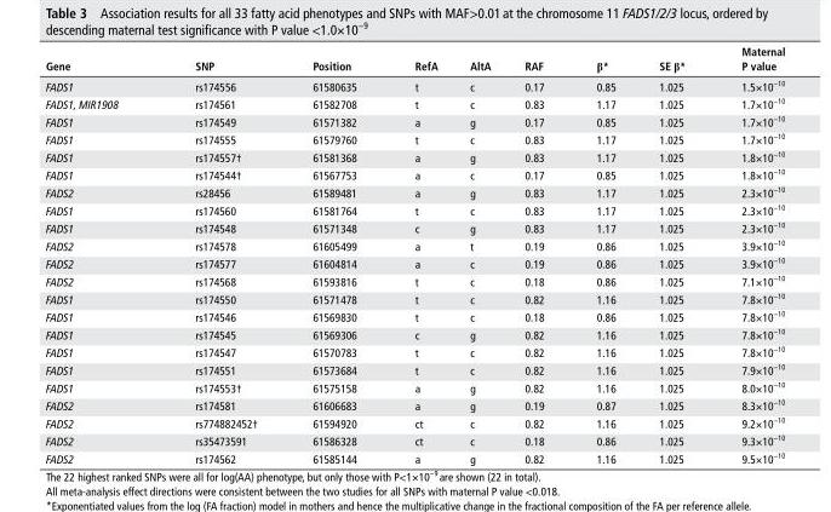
<table><thead><tr><td>Gene</td><td>snP</td><td>Position</td><td>refA</td><td>AltA</td><td>rAF</td><td>β*</td><td>se β*</td><td>Maternal P value</td></tr></thead><tbody><tr><td>FADS1</td><td>rs174556</td><td>61580635</td><td>t</td><td>c</td><td>0.17</td><td>0.85</td><td>1.025</td><td>1.5×10<sup>−10</sup></td></tr><tr><td>FADS1, MIR1908</td><td>rs174561</td><td>61582708</td><td>t</td><td>c</td><td>0.83</td><td>1.17</td><td>1.025</td><td>1.7×10<sup>−10</sup></td></tr><tr><td>FADS1</td><td>rs174549</td><td>61571382</td><td>a</td><td>g</td><td>0.17</td><td>0.85</td><td>1.025</td><td>1.7×10<sup>−10</sup></td></tr><tr><td>FADS1</td><td>rs174555</td><td>61579760</td><td>t</td><td>c</td><td>0.83</td><td>1.17</td><td>1.025</td><td>1.7×10<sup>−10</sup></td></tr><tr><td>FADS1</td><td>rs174557†</td><td>61581368</td><td>a</td><td>g</td><td>0.83</td><td>1.17</td><td>1.025</td><td>1.8×10<sup>−10</sup></td></tr><tr><td>FADS1</td><td>rs174544†</td><td>61567753</td><td>a</td><td>c</td><td>0.17</td><td>0.85</td><td>1.025</td><td>1.8×10<sup>−10</sup></td></tr><tr><td>FADS2</td><td>rs28456</td><td>61589481</td><td>a</td><td>g</td><td>0.83</td><td>1.17</td><td>1.025</td><td>2.3×10<sup>−10</sup></td></tr><tr><td>FADS1</td><td>rs174560</td><td>61581764</td><td>t</td><td>c</td><td>0.83</td><td>1.17</td><td>1.025</td><td>2.3×10<sup>−10</sup></td></tr><tr><td>FADS1</td><td>rs174548</td><td>61571348</td><td>c</td><td>g</td><td>0.83</td><td>1.17</td><td>1.025</td><td>2.3×10<sup>−10</sup></td></tr><tr><td>FADS2</td><td>rs174578</td><td>61605499</td><td>a</td><td>t</td><td>0.19</td><td>0.86</td><td>1.025</td><td>3.9×10<sup>−10</sup></td></tr><tr><td>FADS2</td><td>rs174577</td><td>61604814</td><td>a</td><td>c</td><td>0.19</td><td>0.86</td><td>1.025</td><td>3.9×10<sup>−10</sup></td></tr><tr><td>FADS2</td><td>rs174568</td><td>61593816</td><td>t</td><td>c</td><td>0.18</td><td>0.86</td><td>1.025</td><td>7.1×10<sup>−10</sup></td></tr><tr><td>FADS1</td><td>rs174550</td><td>61571478</td><td>t</td><td>c</td><td>0.82</td><td>1.16</td><td>1.025</td><td>7.8×10<sup>−10</sup></td></tr><tr><td>FADS1</td><td>rs174546</td><td>61569830</td><td>t</td><td>c</td><td>0.18</td><td>0.86</td><td>1.025</td><td>7.8×10<sup>−10</sup></td></tr><tr><td>FADS1</td><td>rs174545</td><td>61569306</td><td>c</td><td>g</td><td>0.82</td><td>1.16</td><td>1.025</td><td>7.8×10<sup>−10</sup></td></tr><tr><td>FADS1</td><td>rs174547</td><td>61570783</td><td>t</td><td>c</td><td>0.82</td><td>1.16</td><td>1.025</td><td>7.8×10<sup>−10</sup></td></tr><tr><td>FADS1</td><td>rs174551</td><td>61573684</td><td>t</td><td>c</td><td>0.82</td><td>1.16</td><td>1.025</td><td>7.9×10<sup>−10</sup></td></tr><tr><td>FADS1</td><td>rs174553†</td><td>61575158</td><td>a</td><td>g</td><td>0.82</td><td>1.16</td><td>1.025</td><td>8.0×10<sup>−10</sup></td></tr><tr><td>FADS2</td><td>rs174581</td><td>61606683</td><td>a</td><td>g</td><td>0.19</td><td>0.87</td><td>1.025</td><td>8.3×10<sup>−10</sup></td></tr><tr><td>FADS2</td><td>rs774882452†</td><td>61594920</td><td>ct</td><td>c</td><td>0.82</td><td>1.16</td><td>1.025</td><td>9.2×10<sup>−10</sup></td></tr><tr><td>FADS2</td><td>rs35473591</td><td>61586328</td><td>ct</td><td>c</td><td>0.18</td><td>0.86</td><td>1.025</td><td>9.3×10<sup>−10</sup></td></tr><tr><td>FADS2</td><td>rs174562</td><td>61585144</td><td>a</td><td>g</td><td>0.82</td><td>1.16</td><td>1.025</td><td>9.5×10<sup>−10</sup></td></tr></tbody></table>